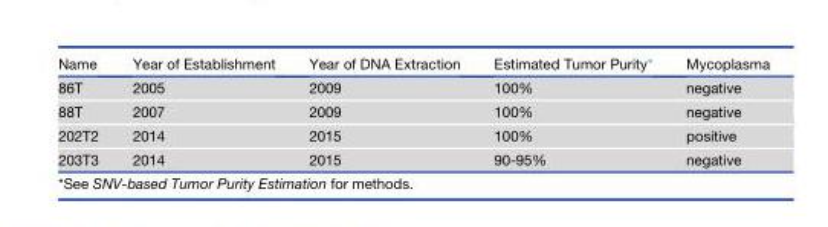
<table><thead><tr><td>Name</td><td>Year of Establishment</td><td>Year of DNA Extraction</td><td>Estimated Tumor Purity*</td><td>Mycoplasma</td></tr></thead><tbody><tr><td>86T</td><td>2005</td><td>2009</td><td>100%</td><td>negative</td></tr><tr><td>88T</td><td>2007</td><td>2009</td><td>100%</td><td>negative</td></tr><tr><td>202T2</td><td>2014</td><td>2015</td><td>100%</td><td>positive</td></tr><tr><td>203T3</td><td>2014</td><td>2015</td><td>90-95%</td><td>negative</td></tr></tbody></table>